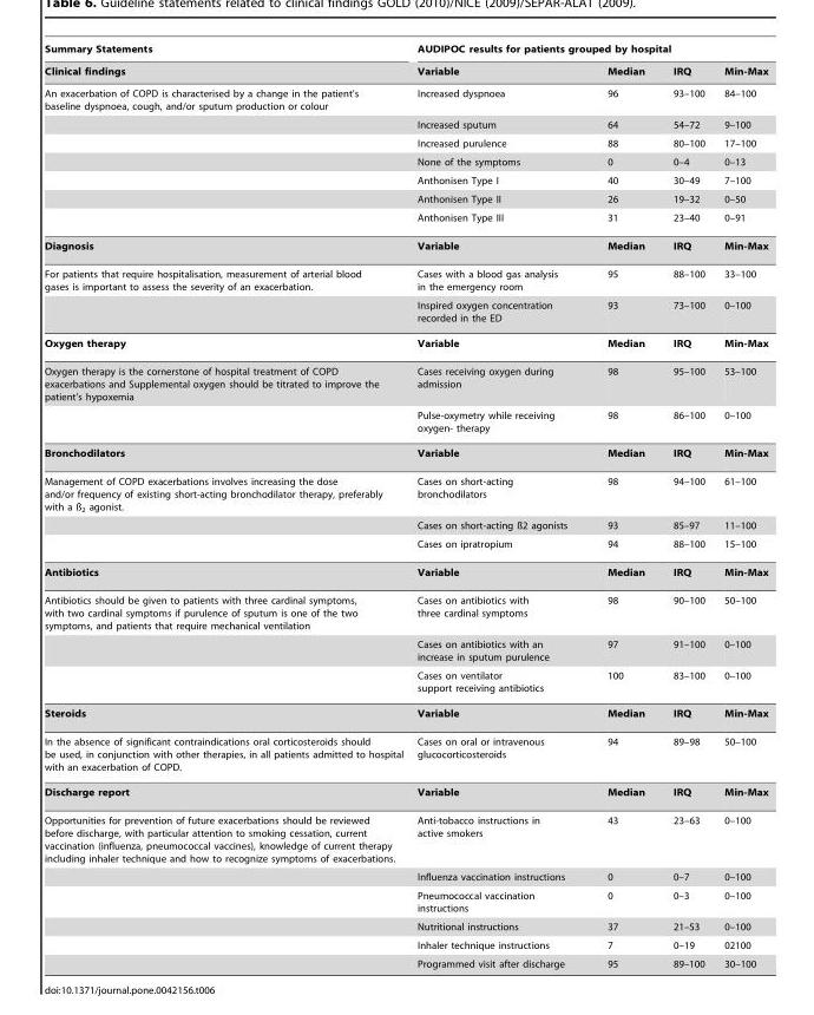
<table><thead><tr><td rowspan="2">Summary Statements Clinical findings</td><td colspan="4">AUDIPOC results for patients grouped by hospital</td></tr><tr><td>Variable</td><td>Median</td><td>IRQ</td><td>Min-Max</td></tr></thead><tbody><tr><td rowspan="7">An exacerbation of COPD is characterised by a change in the patient’s baseline dyspnoea, cough, and/or sputum production or colour</td><td>Increased dyspnoea</td><td>96</td><td>93–100</td><td>84–100</td></tr><tr><td>Increased sputum</td><td>64</td><td>54–72</td><td>9–100</td></tr><tr><td>Increased purulence</td><td>88</td><td>80–100</td><td>17–100</td></tr><tr><td>None of the symptoms</td><td>0</td><td>0–4</td><td>0–13</td></tr><tr><td>Anthonisen Type I</td><td>40</td><td>30–49</td><td>7–100</td></tr><tr><td>Anthonisen Type II</td><td>26</td><td>19–32</td><td>0–50</td></tr><tr><td>Anthonisen Type III</td><td>31</td><td>23–40</td><td>0–91</td></tr><tr><td>Diagnosis</td><td>Variable</td><td>Median</td><td>IRQ</td><td>Min-Max</td></tr><tr><td rowspan="2">For patients that require hospitalisation, measurement of arterial blood gases is important to assess the severity of an exacerbation.</td><td>Cases with a blood gas analysis in the emergency room</td><td>95</td><td>88–100</td><td>33–100</td></tr><tr><td>Inspired oxygen concentration recorded in the ED</td><td>93</td><td>73–100</td><td>0–100</td></tr><tr><td>Oxygen therapy</td><td>Variable</td><td>Median</td><td>IRQ</td><td>Min-Max</td></tr><tr><td rowspan="2">Oxygen therapy is the cornerstone of hospital treatment of COPD exacerbations and Supplemental oxygen should be titrated to improve the patient’s hypoxemia</td><td>Cases receiving oxygen during admission</td><td>98</td><td>95–100</td><td>53–100</td></tr><tr><td>Pulse-oxymetry while receiving oxygen- therapy</td><td>98</td><td>86–100</td><td>0–100</td></tr><tr><td>Bronchodilators</td><td>Variable</td><td>Median</td><td>IRQ</td><td>Min-Max</td></tr><tr><td rowspan="3">Management of COPD exacerbations involves increasing the dose and/or frequency of existing short-acting bronchodilator therapy, preferably with a ß<sub>2</sub> agonist.</td><td>Cases on short-acting bronchodilators</td><td>98</td><td>94–100</td><td>61–100</td></tr><tr><td>Cases on short-acting ß2 agonists</td><td>93</td><td>85–97</td><td>11–100</td></tr><tr><td>Cases on ipratropium</td><td>94</td><td>88–100</td><td>15–100</td></tr><tr><td>Antibiotics</td><td>Variable</td><td>Median</td><td>IRQ</td><td>Min-Max</td></tr><tr><td rowspan="3">Antibiotics should be given to patients with three cardinal symptoms, with two cardinal symptoms if purulence of sputum is one of the two symptoms, and patients that require mechanical ventilation</td><td>Cases on antibiotics with three cardinal symptoms</td><td>98</td><td>90–100</td><td>50–100</td></tr><tr><td>Cases on antibiotics with an increase in sputum purulence</td><td>97</td><td>91–100</td><td>0–100</td></tr><tr><td>Cases on ventilator support receiving antibiotics</td><td>100</td><td>83–100</td><td>0–100</td></tr><tr><td>Steroids</td><td>Variable</td><td>Median</td><td>IRQ</td><td>Min-Max</td></tr><tr><td>In the absence of significant contraindications oral corticosteroids should be used, in conjunction with other therapies, in all patients admitted to hospital with an exacerbation of COPD.</td><td>Cases on oral or intravenous glucocorticosteroids</td><td>94</td><td>89–98</td><td>50–100</td></tr><tr><td>Discharge report</td><td>Variable</td><td>Median</td><td>IRQ</td><td>Min-Max</td></tr><tr><td rowspan="6">Opportunities for prevention of future exacerbations should be reviewed before discharge, with particular attention to smoking cessation, current vaccination (influenza, pneumococcal vaccines), knowledge of current therapy including inhaler technique and how to recognize symptoms of exacerbations.</td><td>Anti-tobacco instructions in active smokers</td><td>43</td><td>23–63</td><td>0–100</td></tr><tr><td>Influenza vaccination instructions</td><td>0</td><td>0–7</td><td>0–100</td></tr><tr><td>Pneumococcal vaccination instructions</td><td>0</td><td>0–3</td><td>0–100</td></tr><tr><td>Nutritional instructions</td><td>37</td><td>21–53</td><td>0–100</td></tr><tr><td>Inhaler technique instructions</td><td>7</td><td>0–19</td><td>02100</td></tr><tr><td>Programmed visit after discharge</td><td>95</td><td>89–100</td><td>30–100</td></tr></tbody></table>